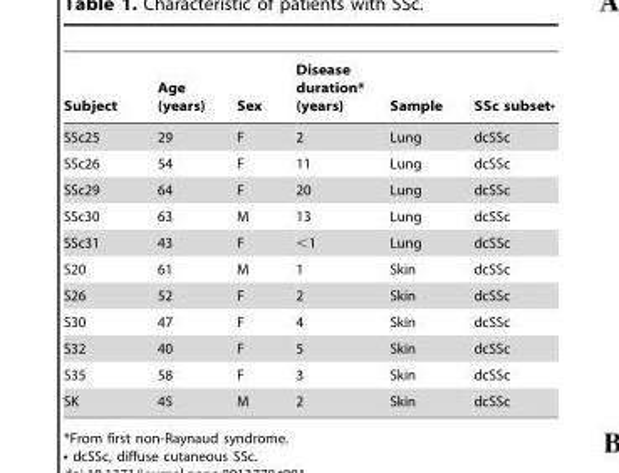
<table><thead><tr><td>Subject</td><td>Age (years)</td><td>Sex</td><td>Disease duration* (years)</td><td>Sample</td><td>SSc subset•</td></tr></thead><tbody><tr><td>SSc25</td><td>29</td><td>F</td><td>2</td><td>Lung</td><td>dcSSc</td></tr><tr><td>SSc26</td><td>54</td><td>F</td><td>11</td><td>Lung</td><td>dcSSc</td></tr><tr><td>SSc29</td><td>64</td><td>F</td><td>20</td><td>Lung</td><td>dcSSc</td></tr><tr><td>SSc30</td><td>63</td><td>M</td><td>13</td><td>Lung</td><td>dcSSc</td></tr><tr><td>SSc31</td><td>43</td><td>F</td><td>&lt;1</td><td>Lung</td><td>dcSSc</td></tr><tr><td>S20</td><td>61</td><td>M</td><td>1</td><td>Skin</td><td>dcSSc</td></tr><tr><td>S26</td><td>52</td><td>F</td><td>2</td><td>Skin</td><td>dcSSc</td></tr><tr><td>S30</td><td>47</td><td>F</td><td>4</td><td>Skin</td><td>dcSSc</td></tr><tr><td>S32</td><td>40</td><td>F</td><td>5</td><td>Skin</td><td>dcSSc</td></tr><tr><td>S35</td><td>58</td><td>F</td><td>3</td><td>Skin</td><td>dcSSc</td></tr><tr><td>SK</td><td>45</td><td>M</td><td>2</td><td>Skin</td><td>dcSSc</td></tr></tbody></table>